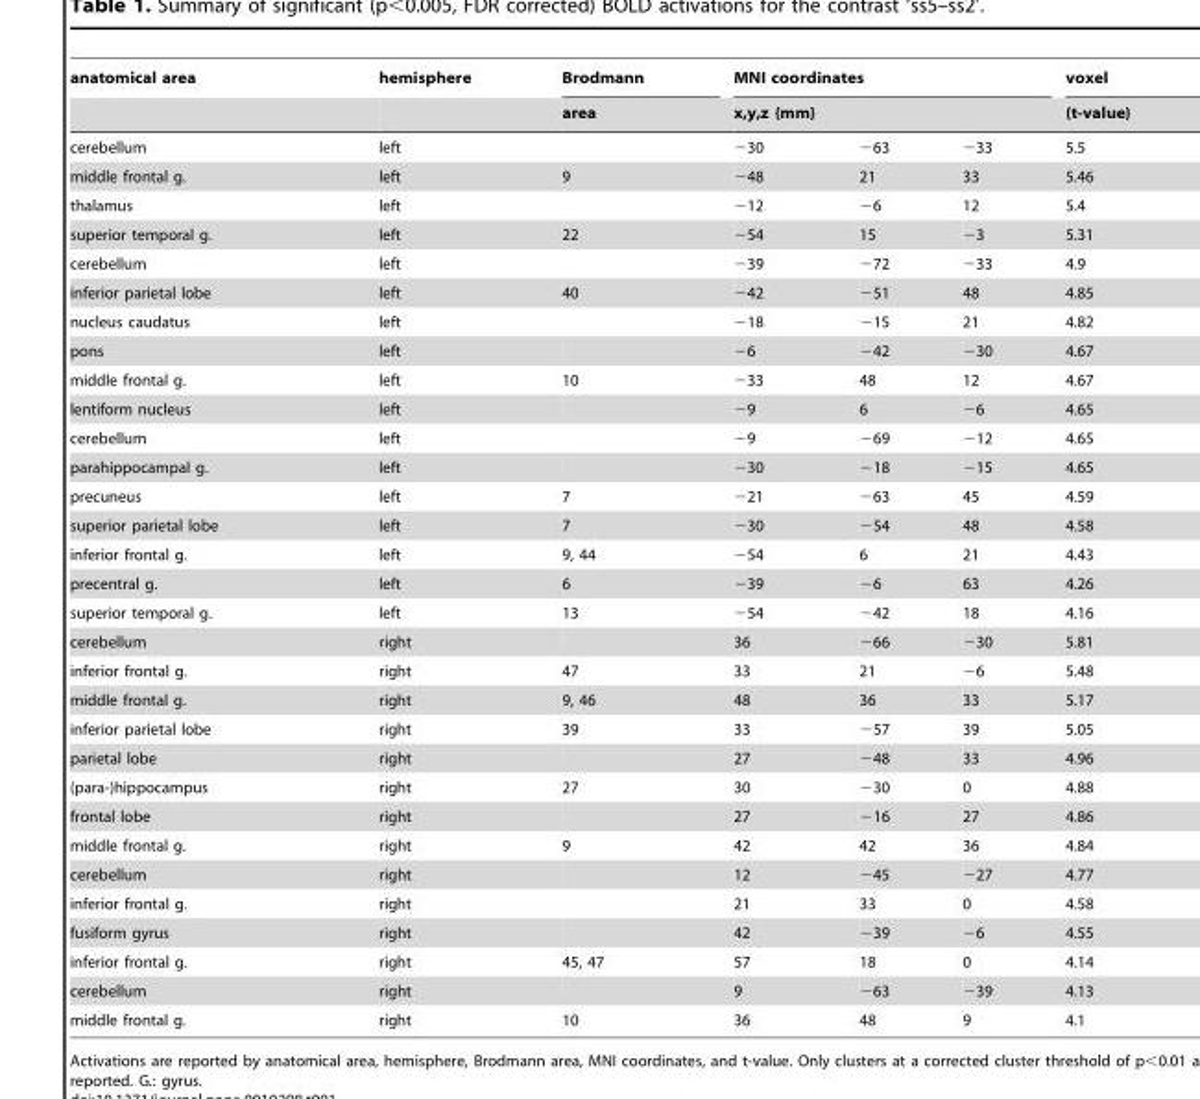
<table><thead><tr><td rowspan="3">anatomical area cerebellum</td><td rowspan="3">hemisphere left</td><td rowspan="3">Brodmann area</td><td rowspan="2" colspan="3">MNI coordinates x,y,z {mm}</td><td rowspan="3">voxel (t-value) 5.5</td></tr><tr></tr><tr><td>−30</td><td>−63</td><td>−33</td></tr></thead><tbody><tr><td>middle frontal g.</td><td>left</td><td>9</td><td>−48</td><td>21</td><td>33</td><td>5.46</td></tr><tr><td>thalamus</td><td>left</td><td></td><td>−12</td><td>−6</td><td>12</td><td>5.4</td></tr><tr><td>superior temporal g.</td><td>left</td><td>22</td><td>−54</td><td>15</td><td>−3</td><td>5.31</td></tr><tr><td>cerebellum</td><td>left</td><td></td><td>−39</td><td>−72</td><td>−33</td><td>4.9</td></tr><tr><td>inferior parietal lobe</td><td>left</td><td>40</td><td>−42</td><td>−51</td><td>48</td><td>4.85</td></tr><tr><td>nucleus caudatus</td><td>left</td><td></td><td>−18</td><td>−15</td><td>21</td><td>4.82</td></tr><tr><td>pons</td><td>left</td><td></td><td>−6</td><td>−42</td><td>−30</td><td>4.67</td></tr><tr><td>middle frontal g.</td><td>left</td><td>10</td><td>−33</td><td>48</td><td>12</td><td>4.67</td></tr><tr><td>lentiform nucleus</td><td>left</td><td></td><td>−9</td><td>6</td><td>−6</td><td>4.65</td></tr><tr><td>cerebellum</td><td>left</td><td></td><td>−9</td><td>−69</td><td>−12</td><td>4.65</td></tr><tr><td>parahippocampal g.</td><td>left</td><td></td><td>−30</td><td>−18</td><td>−15</td><td>4.65</td></tr><tr><td>precuneus</td><td>left</td><td>7</td><td>−21</td><td>−63</td><td>45</td><td>4.59</td></tr><tr><td>superior parietal lobe</td><td>left</td><td>7</td><td>−30</td><td>−54</td><td>48</td><td>4.58</td></tr><tr><td>inferior frontal g.</td><td>left</td><td>9, 44</td><td>−54</td><td>6</td><td>21</td><td>4.43</td></tr><tr><td>precentral g.</td><td>left</td><td>6</td><td>−39</td><td>−6</td><td>63</td><td>4.26</td></tr><tr><td>superior temporal g.</td><td>left</td><td>13</td><td>−54</td><td>−42</td><td>18</td><td>4.16</td></tr><tr><td>cerebellum</td><td>right</td><td></td><td>36</td><td>−66</td><td>−30</td><td>5.81</td></tr><tr><td>inferior frontal g.</td><td>right</td><td>47</td><td>33</td><td>21</td><td>−6</td><td>5.48</td></tr><tr><td>middle frontal g.</td><td>right</td><td>9, 46</td><td>48</td><td>36</td><td>33</td><td>5.17</td></tr><tr><td>inferior parietal lobe</td><td>right</td><td>39</td><td>33</td><td>−57</td><td>39</td><td>5.05</td></tr><tr><td>parietal lobe</td><td>right</td><td></td><td>27</td><td>−48</td><td>33</td><td>4.96</td></tr><tr><td>(para-)hippocampus</td><td>right</td><td>27</td><td>30</td><td>−30</td><td>0</td><td>4.88</td></tr><tr><td>frontal lobe</td><td>right</td><td></td><td>27</td><td>−16</td><td>27</td><td>4.86</td></tr><tr><td>middle frontal g.</td><td>right</td><td>9</td><td>42</td><td>42</td><td>36</td><td>4.84</td></tr><tr><td>cerebellum</td><td>right</td><td></td><td>12</td><td>−45</td><td>−27</td><td>4.77</td></tr><tr><td>inferior frontal g.</td><td>right</td><td></td><td>21</td><td>33</td><td>0</td><td>4.58</td></tr><tr><td>fusiform gyrus</td><td>right</td><td></td><td>42</td><td>−39</td><td>−6</td><td>4.55</td></tr><tr><td>inferior frontal g.</td><td>right</td><td>45, 47</td><td>57</td><td>18</td><td>0</td><td>4.14</td></tr><tr><td>cerebellum</td><td>right</td><td></td><td>9</td><td>−63</td><td>−39</td><td>4.13</td></tr><tr><td>middle frontal g.</td><td>right</td><td>10</td><td>36</td><td>48</td><td>9</td><td>4.1</td></tr></tbody></table>